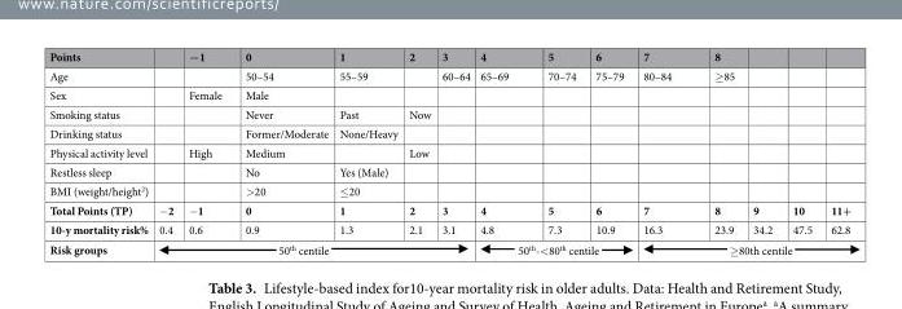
<table><thead><tr><td>Points</td><td></td><td>−1</td><td>0</td><td>1</td><td>2</td><td>3</td><td>4</td><td>5</td><td>6</td><td>7</td><td>8</td><td></td><td></td><td></td></tr></thead><tbody><tr><td>Age</td><td></td><td></td><td>50–54</td><td>55–59</td><td></td><td>60–64</td><td>65–69</td><td>70–74</td><td>75–79</td><td>80–84</td><td>≥85</td><td></td><td></td><td></td></tr><tr><td>Sex</td><td></td><td>Female</td><td>Male</td><td></td><td></td><td></td><td></td><td></td><td></td><td></td><td></td><td></td><td></td><td></td></tr><tr><td>Smoking status</td><td></td><td></td><td>Never</td><td>Past</td><td>Now</td><td></td><td></td><td></td><td></td><td></td><td></td><td></td><td></td><td></td></tr><tr><td>Drinking status</td><td></td><td></td><td>Former/Moderate</td><td>None/Heavy</td><td></td><td></td><td></td><td></td><td></td><td></td><td></td><td></td><td></td><td></td></tr><tr><td>Physical activity level</td><td></td><td>High</td><td>Medium</td><td></td><td>Low</td><td></td><td></td><td></td><td></td><td></td><td></td><td></td><td></td><td></td></tr><tr><td>Restless sleep</td><td></td><td></td><td>No</td><td>Yes (Male)</td><td></td><td></td><td></td><td></td><td></td><td></td><td></td><td></td><td></td><td></td></tr><tr><td>BMI (weight/height<sup>2</sup>)</td><td></td><td></td><td>&gt;20</td><td>≤20</td><td></td><td></td><td></td><td></td><td></td><td></td><td></td><td></td><td></td><td></td></tr><tr><td>Total Points (TP)</td><td>−2</td><td>−1</td><td>0</td><td>1</td><td>2</td><td>3</td><td>4</td><td>5</td><td>6</td><td>7</td><td>8</td><td>9</td><td>10</td><td>11+</td></tr><tr><td>10-y mortality risk%</td><td>0.4</td><td>0.6</td><td>0.9</td><td>1.3</td><td>2.1</td><td>3.1</td><td>4.8</td><td>7.3</td><td>10.9</td><td>16.3</td><td>23.9</td><td>34.2</td><td>47.5</td><td>62.8</td></tr><tr><td>Risk groups</td><td colspan="6">50<sup>th</sup> centile</td><td colspan="3">50<sup>th</sup>-&lt;80<sup>th</sup> centile</td><td colspan="5">≥80th centile</td></tr></tbody></table>